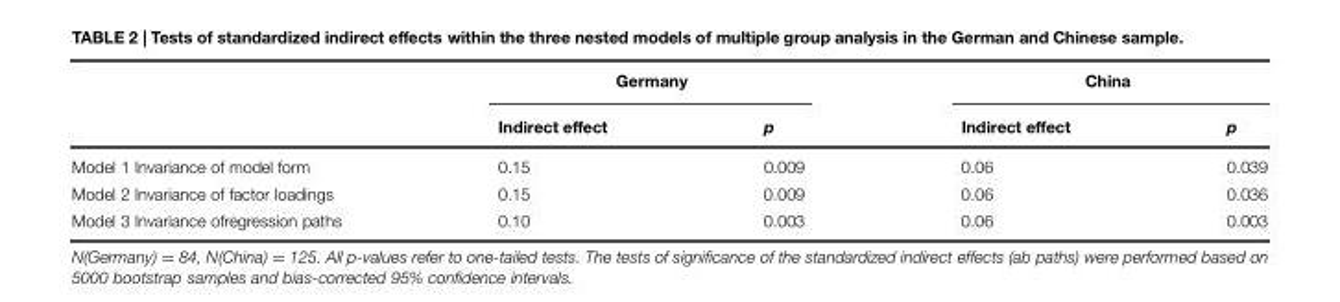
<table><thead><tr><td rowspan="2"></td><td colspan="2">Germany</td><td colspan="2">China</td></tr><tr><td>Indirect effect</td><td>p</td><td>Indirect effect</td><td>p</td></tr></thead><tbody><tr><td>Model 1 Invariance of model form</td><td>0.15</td><td>0.009</td><td>0.06</td><td>0.039</td></tr><tr><td>Model 2 Invariance of factor loadings</td><td>0.15</td><td>0.009</td><td>0.06</td><td>0.036</td></tr><tr><td>Model 3 Invariance ofregression paths</td><td>0.10</td><td>0.003</td><td>0.06</td><td>0.003</td></tr></tbody></table>